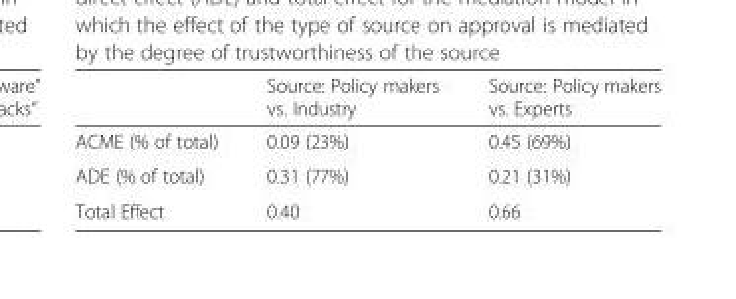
<table><thead><tr><td></td><td>Source: Policy makers vs. Industry</td><td>Source: Policy makers vs. Experts</td></tr></thead><tbody><tr><td>ACME (% of total)</td><td>0.09 (23%)</td><td>0.45 (69%)</td></tr><tr><td>ADE (% of total)</td><td>0.31 (77%)</td><td>0.21 (31%)</td></tr><tr><td>Total Effect</td><td>0.40</td><td>0.66</td></tr></tbody></table>